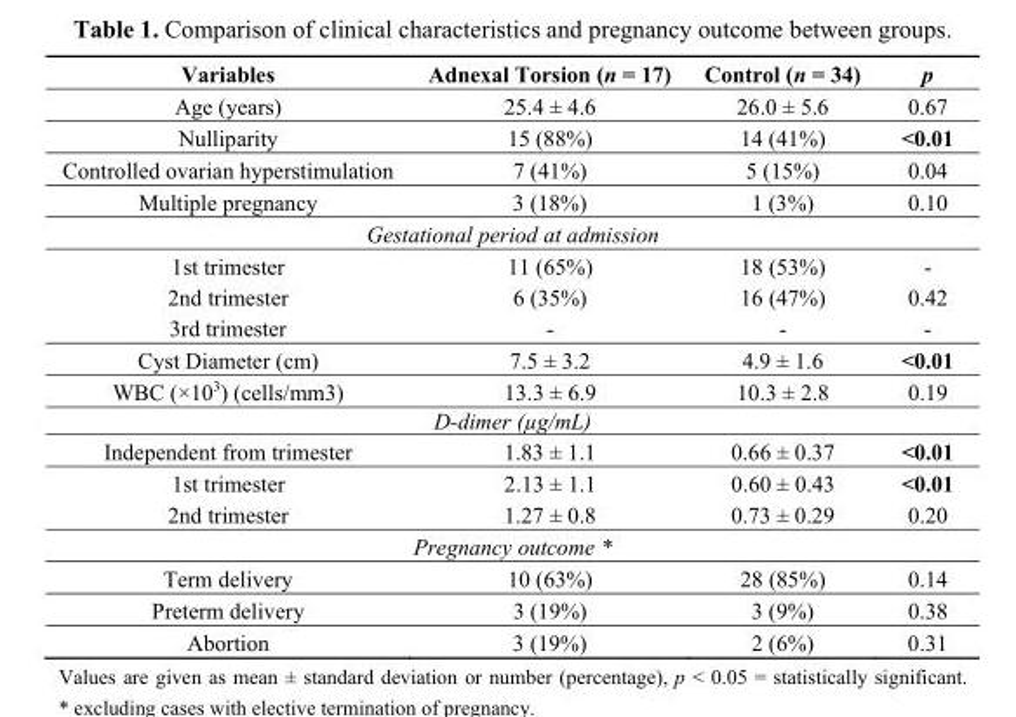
<table><thead><tr><td>Variables</td><td>Adnexal Torsion (n = 17)</td><td>Control (n = 34)</td><td>p</td></tr></thead><tbody><tr><td>Age (years)</td><td>25.4 ± 4.6</td><td>26.0 ± 5.6</td><td>0.67</td></tr><tr><td>Nulliparity</td><td>15 (88%)</td><td>14 (41%)</td><td>&lt;0.01</td></tr><tr><td>Controlled ovarian hyperstimulation</td><td>7 (41%)</td><td>5 (15%)</td><td>0.04</td></tr><tr><td>Multiple pregnancy</td><td>3 (18%)</td><td>1 (3%)</td><td>0.10</td></tr><tr><td colspan="4">Gestational period at admission</td></tr><tr><td>1st trimester</td><td>11 (65%)</td><td>18 (53%)</td><td>-</td></tr><tr><td>2nd trimester</td><td>6 (35%)</td><td>16 (47%)</td><td>0.42</td></tr><tr><td>3rd trimester</td><td>-</td><td>-</td><td>-</td></tr><tr><td>Cyst Diameter (cm)</td><td>7.5 ± 3.2</td><td>4.9 ± 1.6</td><td>&lt;0.01</td></tr><tr><td>WBC (×10<sup>3</sup>) (cells/mm3)</td><td>13.3 ± 6.9</td><td>10.3 ± 2.8</td><td>0.19</td></tr><tr><td colspan="4">D-dimer (µg/mL)</td></tr><tr><td>Independent from trimester</td><td>1.83 ± 1.1</td><td>0.66 ± 0.37</td><td>&lt;0.01</td></tr><tr><td>1st trimester</td><td>2.13 ± 1.1</td><td>0.60 ± 0.43</td><td>&lt;0.01</td></tr><tr><td>2nd trimester</td><td>1.27 ± 0.8</td><td>0.73 ± 0.29</td><td>0.20</td></tr><tr><td colspan="4">Pregnancy outcome *</td></tr><tr><td>Term delivery</td><td>10 (63%)</td><td>28 (85%)</td><td>0.14</td></tr><tr><td>Preterm delivery</td><td>3 (19%)</td><td>3 (9%)</td><td>0.38</td></tr><tr><td>Abortion</td><td>3 (19%)</td><td>2 (6%)</td><td>0.31</td></tr></tbody></table>